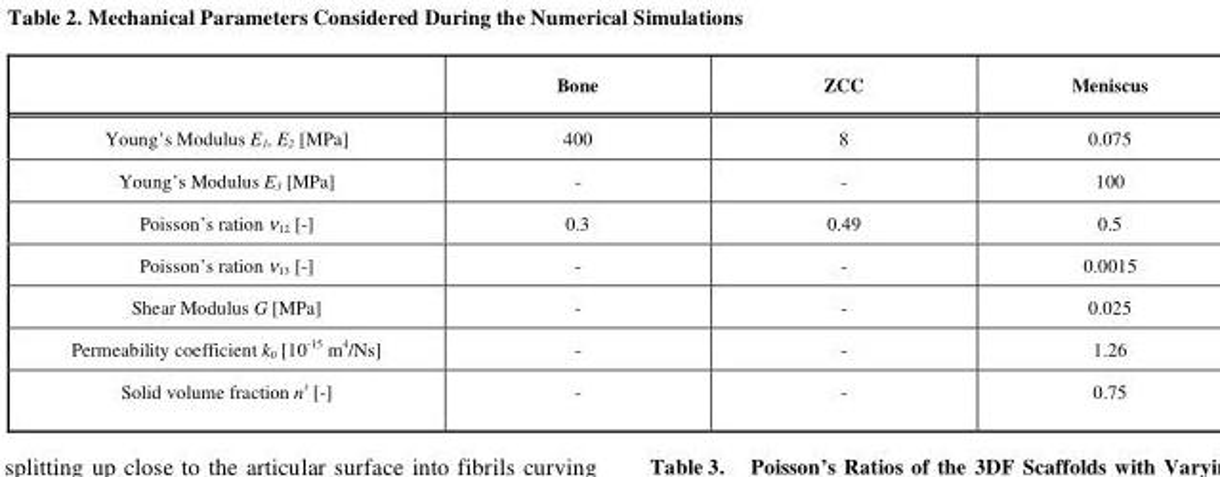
<table><thead><tr><td></td><td>Bone</td><td>ZCC</td><td>Meniscus</td></tr></thead><tbody><tr><td>Young’s Modulus E<sub>1</sub>, E<sub>2</sub> [MPa]</td><td>400</td><td>8</td><td>0.075</td></tr><tr><td>Young’s Modulus E<sub>3</sub> [MPa]</td><td>-</td><td>-</td><td>100</td></tr><tr><td>Poisson’s ration v<sub>12</sub> [-]</td><td>0.3</td><td>0.49</td><td>0.5</td></tr><tr><td>Poisson’s ration v<sub>13</sub> [-]</td><td>-</td><td>-</td><td>0.0015</td></tr><tr><td>Shear Modulus G [MPa]</td><td>-</td><td>-</td><td>0.025</td></tr><tr><td>Permeability coefficient k<sub>0</sub> [10<sup>-15</sup> m<sup>4</sup>/Ns]</td><td>-</td><td>-</td><td>1.26</td></tr><tr><td>Solid volume fraction n<sup>s</sup> [-]</td><td>-</td><td>-</td><td>0.75</td></tr></tbody></table>